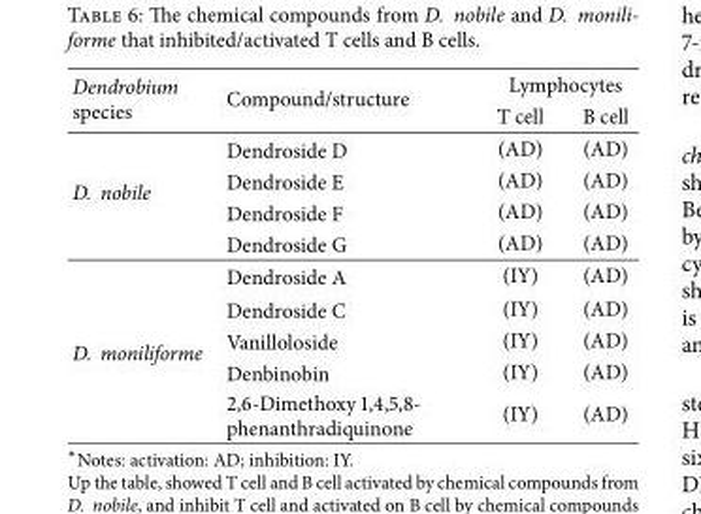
<table><thead><tr><td rowspan="2">Dendrobium species</td><td rowspan="2">Compound/structure</td><td colspan="2">Lymphocytes</td></tr><tr><td>T cell</td><td>B cell</td></tr></thead><tbody><tr><td rowspan="4">D. nobile</td><td>Dendroside D</td><td>(AD)</td><td>(AD)</td></tr><tr><td>Dendroside E</td><td>(AD)</td><td>(AD)</td></tr><tr><td>Dendroside F</td><td>(AD)</td><td>(AD)</td></tr><tr><td>Dendroside G</td><td>(AD)</td><td>(AD)</td></tr><tr><td rowspan="5">D. moniliforme</td><td>Dendroside A</td><td>(IY)</td><td>(AD)</td></tr><tr><td>Dendroside C</td><td>(IY)</td><td>(AD)</td></tr><tr><td>Vanilloloside</td><td>(IY)</td><td>(AD)</td></tr><tr><td>Denbinobin</td><td>(IY)</td><td>(AD)</td></tr><tr><td>2,6-Dimethoxy 1,4,5,8- phenanthradiquinone</td><td>(IY)</td><td>(AD)</td></tr></tbody></table>